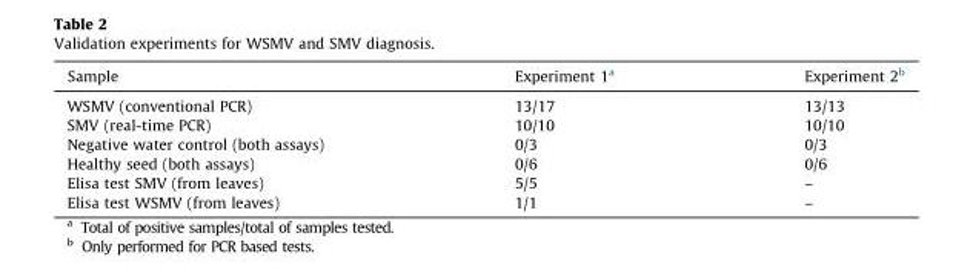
<table><thead><tr><td>Sample</td><td>Experiment 1<sup>a</sup></td><td>Experiment 2<sup>b</sup></td></tr></thead><tbody><tr><td>WSMV (conventional PCR)</td><td>13/17</td><td>13/13</td></tr><tr><td>SMV (real-time PCR)</td><td>10/10</td><td>10/10</td></tr><tr><td>Negative water control (both assays)</td><td>0/3</td><td>0/3</td></tr><tr><td>Healthy seed (both assays)</td><td>0/6</td><td>0/6</td></tr><tr><td>Elisa test SMV (from leaves)</td><td>5/5</td><td>–</td></tr><tr><td>Elisa test WSMV (from leaves)</td><td>1/1</td><td>–</td></tr></tbody></table>